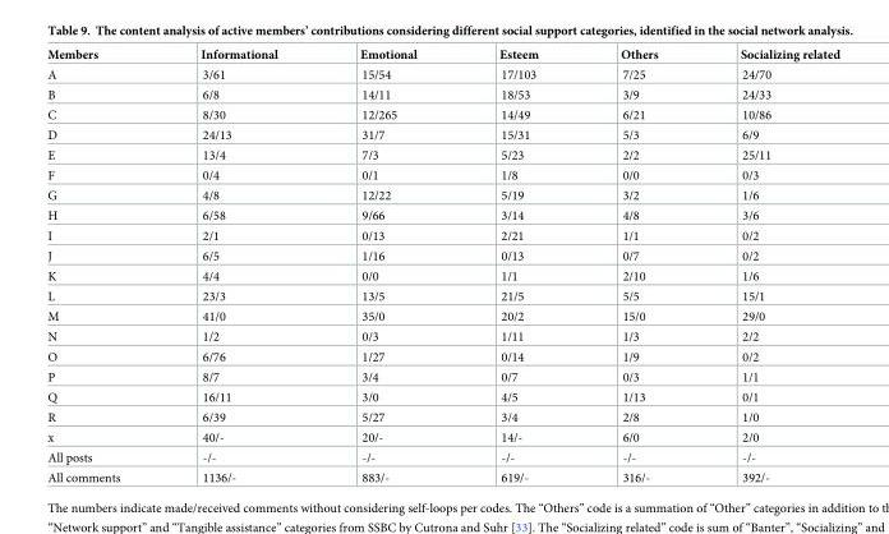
<table><thead><tr><td>Members</td><td>Informational</td><td>Emotional</td><td>Esteem</td><td>Others</td><td>Socializing related</td></tr></thead><tbody><tr><td>A</td><td>3/61</td><td>15/54</td><td>17/103</td><td>7/25</td><td>24/70</td></tr><tr><td>B</td><td>6/8</td><td>14/11</td><td>18/53</td><td>3/9</td><td>24/33</td></tr><tr><td>C</td><td>8/30</td><td>12/265</td><td>14/49</td><td>6/21</td><td>10/86</td></tr><tr><td>D</td><td>24/13</td><td>31/7</td><td>15/31</td><td>5/3</td><td>6/9</td></tr><tr><td>E</td><td>13/4</td><td>7/3</td><td>5/23</td><td>2/2</td><td>25/11</td></tr><tr><td>F</td><td>0/4</td><td>0/1</td><td>1/8</td><td>0/0</td><td>0/3</td></tr><tr><td>G</td><td>4/8</td><td>12/22</td><td>5/19</td><td>3/2</td><td>1/6</td></tr><tr><td>H</td><td>6/58</td><td>9/66</td><td>3/14</td><td>4/8</td><td>3/6</td></tr><tr><td>I</td><td>2/1</td><td>0/13</td><td>2/21</td><td>1/1</td><td>0/2</td></tr><tr><td>J</td><td>6/5</td><td>1/16</td><td>0/13</td><td>0/7</td><td>0/2</td></tr><tr><td>K</td><td>4/4</td><td>0/0</td><td>1/1</td><td>2/10</td><td>1/6</td></tr><tr><td>L</td><td>23/3</td><td>13/5</td><td>21/5</td><td>5/5</td><td>15/1</td></tr><tr><td>M</td><td>41/0</td><td>35/0</td><td>20/2</td><td>15/0</td><td>29/0</td></tr><tr><td>N</td><td>1/2</td><td>0/3</td><td>1/11</td><td>1/3</td><td>2/2</td></tr><tr><td>O</td><td>6/76</td><td>1/27</td><td>0/14</td><td>1/9</td><td>0/2</td></tr><tr><td>P</td><td>8/7</td><td>3/4</td><td>0/7</td><td>0/3</td><td>1/1</td></tr><tr><td>Q</td><td>16/11</td><td>3/0</td><td>4/5</td><td>1/13</td><td>0/1</td></tr><tr><td>R</td><td>6/39</td><td>5/27</td><td>3/4</td><td>2/8</td><td>1/0</td></tr><tr><td>x</td><td>40/-</td><td>20/-</td><td>14/-</td><td>6/0</td><td>2/0</td></tr><tr><td>All posts</td><td>-/-</td><td>-/-</td><td>-/-</td><td>-/-</td><td>-/-</td></tr><tr><td>All comments</td><td>1136/-</td><td>883/-</td><td>619/-</td><td>316/-</td><td>392/-</td></tr></tbody></table>